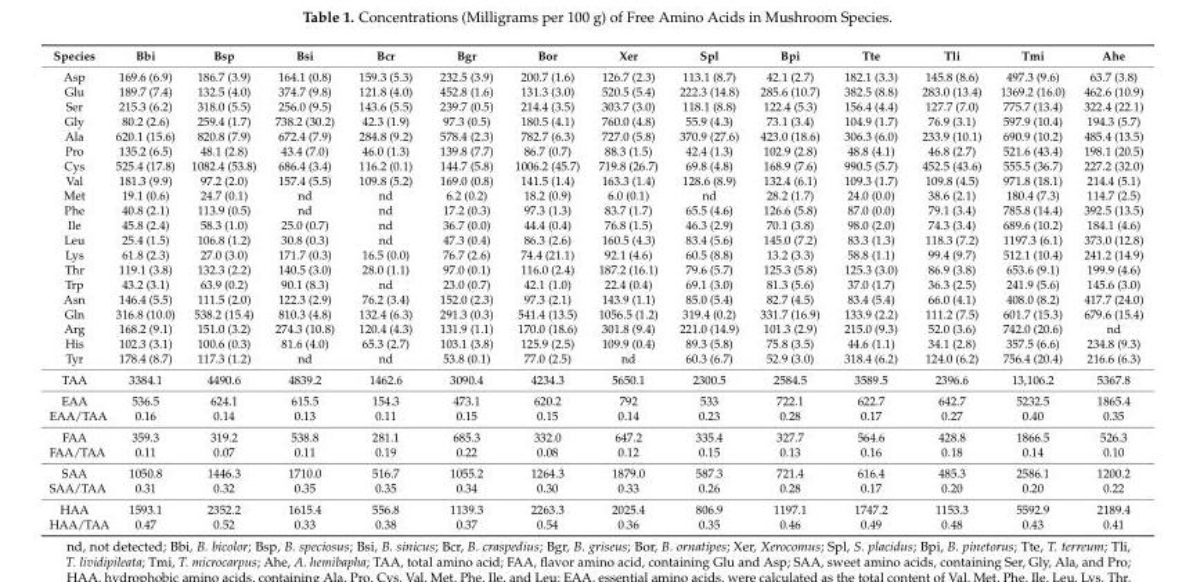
<table><thead><tr><td>Species</td><td>Bbi</td><td>Bsp</td><td>Bsi</td><td>Bcr</td><td>Bgr</td><td>Bor</td><td>Xer</td><td>Spl</td><td>Bpi</td><td>Tte</td><td>Tli</td><td>Tmi</td><td>Ahe</td></tr></thead><tbody><tr><td>Asp</td><td>169.6 (6.9)</td><td>186.7 (3.9)</td><td>164.1 (0.8)</td><td>159.3 (5.3)</td><td>232.5 (3.9)</td><td>200.7 (1.6)</td><td>126.7 (2.3)</td><td>113.1 (8.7)</td><td>42.1 (2.7)</td><td>182.1 (3.3)</td><td>145.8 (8.6)</td><td>497.3 (9.6)</td><td>63.7 (3.8)</td></tr><tr><td>Glu</td><td>189.7 (7.4)</td><td>132.5 (4.0)</td><td>374.7 (9.8)</td><td>121.8 (4.0)</td><td>452.8 (1.6)</td><td>131.3 (3.0)</td><td>520.5 (5.4)</td><td>222.3 (14.8)</td><td>285.6 (10.7)</td><td>382.5 (8.8)</td><td>283.0 (13.4)</td><td>1369.2 (16.0)</td><td>462.6 (10.9)</td></tr><tr><td>Ser</td><td>215.3 (6.2)</td><td>318.0 (5.5)</td><td>256.0 (9.5)</td><td>143.6 (5.5)</td><td>239.7 (0.5)</td><td>214.4 (3.5)</td><td>303.7 (3.0)</td><td>118.1 (8.8)</td><td>122.4 (5.3)</td><td>156.4 (4.4)</td><td>127.7 (7.0)</td><td>775.7 (13.4)</td><td>322.4 (22.1)</td></tr><tr><td>Gly</td><td>80.2 (2.6)</td><td>259.4 (1.7)</td><td>738.2 (30.2)</td><td>42.3 (1.9)</td><td>97.3 (0.5)</td><td>180.5 (4.1)</td><td>760.0 (4.8)</td><td>55.9 (4.3)</td><td>73.1 (3.4)</td><td>104.9 (1.7)</td><td>76.9 (3.1)</td><td>597.9 (10.4)</td><td>194.3 (5.7)</td></tr><tr><td>Ala</td><td>620.1 (15.6)</td><td>820.8 (7.9)</td><td>672.4 (7.9)</td><td>284.8 (9.2)</td><td>578.4 (2.3)</td><td>782.7 (6.3)</td><td>727.0 (5.8)</td><td>370.9 (27.6)</td><td>423.0 (18.6)</td><td>306.3 (6.0)</td><td>233.9 (10.1)</td><td>690.9 (10.2)</td><td>485.4 (13.5)</td></tr><tr><td>Pro</td><td>135.2 (6.5)</td><td>48.1 (2.8)</td><td>43.4 (7.0)</td><td>46.0 (1.3)</td><td>139.8 (7.7)</td><td>86.7 (0.7)</td><td>88.3 (1.5)</td><td>42.4 (1.3)</td><td>102.9 (2.8)</td><td>48.8 (4.1)</td><td>46.8 (2.7)</td><td>521.6 (43.4)</td><td>198.1 (20.5)</td></tr><tr><td>Cys</td><td>525.4 (17.8)</td><td>1082.4 (53.8)</td><td>686.4 (3.4)</td><td>116.2 (0.1)</td><td>144.7 (5.8)</td><td>1006.2 (45.7)</td><td>719.8 (26.7)</td><td>69.8 (4.8)</td><td>168.9 (7.6)</td><td>990.5 (5.7)</td><td>452.5 (43.6)</td><td>555.5 (36.7)</td><td>227.2 (32.0)</td></tr><tr><td>Val</td><td>181.3 (9.9)</td><td>97.2 (2.0)</td><td>157.4 (5.5)</td><td>109.8 (5.2)</td><td>169.0 (0.8)</td><td>141.5 (1.4)</td><td>163.3 (1.4)</td><td>128.6 (8.9)</td><td>132.4 (6.1)</td><td>109.3 (1.7)</td><td>109.8 (4.5)</td><td>971.8 (18.1)</td><td>214.4 (5.1)</td></tr><tr><td>Met</td><td>19.1 (0.6)</td><td>24.7 (0.1)</td><td>nd</td><td>nd</td><td>6.2 (0.2)</td><td>18.2 (0.9)</td><td>6.0 (0.1)</td><td>nd</td><td>28.2 (1.7)</td><td>24.0 (0.0)</td><td>38.6 (2.1)</td><td>180.4 (7.3)</td><td>114.7 (2.5)</td></tr><tr><td>Phe</td><td>40.8 (2.1)</td><td>113.9 (0.5)</td><td>nd</td><td>nd</td><td>17.2 (0.3)</td><td>97.3 (1.3)</td><td>83.7 (1.7)</td><td>65.5 (4.6)</td><td>126.6 (5.8)</td><td>87.0 (0.0)</td><td>79.1 (3.4)</td><td>785.8 (14.4)</td><td>392.5 (13.5)</td></tr><tr><td>Ile</td><td>45.8 (2.4)</td><td>58.3 (1.0)</td><td>25.0 (0.7)</td><td>nd</td><td>36.7 (0.0)</td><td>44.4 (0.4)</td><td>76.8 (1.5)</td><td>46.3 (2.9)</td><td>70.1 (3.8)</td><td>98.0 (2.0)</td><td>74.3 (3.4)</td><td>689.6 (10.2)</td><td>184.1 (4.6)</td></tr><tr><td>Leu</td><td>25.4 (1.5)</td><td>106.8 (1.2)</td><td>30.8 (0.3)</td><td>nd</td><td>47.3 (0.4)</td><td>86.3 (2.6)</td><td>160.5 (4.3)</td><td>83.4 (5.6)</td><td>145.0 (7.2)</td><td>83.3 (1.3)</td><td>118.3 (7.2)</td><td>1197.3 (6.1)</td><td>373.0 (12.8)</td></tr><tr><td>Lys</td><td>61.8 (2.3)</td><td>27.0 (3.0)</td><td>171.7 (0.3)</td><td>16.5 (0.0)</td><td>76.7 (2.6)</td><td>74.4 (21.1)</td><td>92.1 (4.6)</td><td>60.5 (8.8)</td><td>13.2 (3.3)</td><td>58.8 (1.1)</td><td>99.4 (9.7)</td><td>512.1 (10.4)</td><td>241.2 (14.9)</td></tr><tr><td>Thr</td><td>119.1 (3.8)</td><td>132.3 (2.2)</td><td>140.5 (3.0)</td><td>28.0 (1.1)</td><td>97.0 (0.1)</td><td>116.0 (2.4)</td><td>187.2 (16.1)</td><td>79.6 (5.7)</td><td>125.3 (5.8)</td><td>125.3 (3.0)</td><td>86.9 (3.8)</td><td>653.6 (9.1)</td><td>199.9 (4.6)</td></tr><tr><td>Trp</td><td>43.2 (3.1)</td><td>63.9 (0.2)</td><td>90.1 (8.3)</td><td>nd</td><td>23.0 (0.7)</td><td>42.1 (1.0)</td><td>22.4 (0.4)</td><td>69.1 (3.0)</td><td>81.3 (5.6)</td><td>37.0 (1.7)</td><td>36.3 (2.5)</td><td>241.9 (5.6)</td><td>145.6 (3.0)</td></tr><tr><td>Asn</td><td>146.4 (5.5)</td><td>111.5 (2.0)</td><td>122.3 (2.9)</td><td>76.2 (3.4)</td><td>152.0 (2.3)</td><td>97.3 (2.1)</td><td>143.9 (1.1)</td><td>85.0 (5.4)</td><td>82.7 (4.5)</td><td>83.4 (5.4)</td><td>66.0 (4.1)</td><td>408.0 (8.2)</td><td>417.7 (24.0)</td></tr><tr><td>Gln</td><td>316.8 (10.0)</td><td>538.2 (15.4)</td><td>810.3 (4.8)</td><td>132.4 (6.3)</td><td>291.3 (0.3)</td><td>541.4 (13.5)</td><td>1056.5 (1.2)</td><td>319.4 (0.2)</td><td>331.7 (16.9)</td><td>133.9 (2.2)</td><td>111.2 (7.5)</td><td>601.7 (15.3)</td><td>679.6 (15.4)</td></tr><tr><td>Arg</td><td>168.2 (9.1)</td><td>151.0 (3.2)</td><td>274.3 (10.8)</td><td>120.4 (4.3)</td><td>131.9 (1.1)</td><td>170.0 (18.6)</td><td>301.8 (9.4)</td><td>221.0 (14.9)</td><td>101.3 (2.9)</td><td>215.0 (9.3)</td><td>52.0 (3.6)</td><td>742.0 (20.6)</td><td>nd</td></tr><tr><td>His</td><td>102.3 (3.1)</td><td>100.6 (0.3)</td><td>81.6 (4.0)</td><td>65.3 (2.7)</td><td>103.1 (3.8)</td><td>125.9 (2.5)</td><td>109.9 (0.4)</td><td>89.3 (5.8)</td><td>75.8 (3.5)</td><td>44.6 (1.1)</td><td>34.1 (2.8)</td><td>357.5 (6.6)</td><td>234.8 (9.3)</td></tr><tr><td>Tyr</td><td>178.4 (8.7)</td><td>117.3 (1.2)</td><td>nd</td><td>nd</td><td>53.8 (0.1)</td><td>77.0 (2.5)</td><td>nd</td><td>60.3 (6.7)</td><td>52.9 (3.0)</td><td>318.4 (6.2)</td><td>124.0 (6.2)</td><td>756.4 (20.4)</td><td>216.6 (6.3)</td></tr><tr><td>TAA</td><td>3384.1</td><td>4490.6</td><td>4839.2</td><td>1462.6</td><td>3090.4</td><td>4234.3</td><td>5650.1</td><td>2300.5</td><td>2584.5</td><td>3589.5</td><td>2396.6</td><td>13,106.2</td><td>5367.8</td></tr><tr><td>EAA</td><td>536.5</td><td>624.1</td><td>615.5</td><td>154.3</td><td>473.1</td><td>620.2</td><td>792</td><td>533</td><td>722.1</td><td>622.7</td><td>642.7</td><td>5232.5</td><td>1865.4</td></tr><tr><td>EAA/TAA</td><td>0.16</td><td>0.14</td><td>0.13</td><td>0.11</td><td>0.15</td><td>0.15</td><td>0.14</td><td>0.23</td><td>0.28</td><td>0.17</td><td>0.27</td><td>0.40</td><td>0.35</td></tr><tr><td>FAA</td><td>359.3</td><td>319.2</td><td>538.8</td><td>281.1</td><td>685.3</td><td>332.0</td><td>647.2</td><td>335.4</td><td>327.7</td><td>564.6</td><td>428.8</td><td>1866.5</td><td>526.3</td></tr><tr><td>FAA/TAA</td><td>0.11</td><td>0.07</td><td>0.11</td><td>0.19</td><td>0.22</td><td>0.08</td><td>0.12</td><td>0.15</td><td>0.13</td><td>0.16</td><td>0.18</td><td>0.14</td><td>0.10</td></tr><tr><td>SAA</td><td>1050.8</td><td>1446.3</td><td>1710.0</td><td>516.7</td><td>1055.2</td><td>1264.3</td><td>1879.0</td><td>587.3</td><td>721.4</td><td>616.4</td><td>485.3</td><td>2586.1</td><td>1200.2</td></tr><tr><td>SAA/TAA</td><td>0.31</td><td>0.32</td><td>0.35</td><td>0.35</td><td>0.34</td><td>0.30</td><td>0.33</td><td>0.26</td><td>0.28</td><td>0.17</td><td>0.20</td><td>0.20</td><td>0.22</td></tr><tr><td>HAA</td><td>1593.1</td><td>2352.2</td><td>1615.4</td><td>556.8</td><td>1139.3</td><td>2263.3</td><td>2025.4</td><td>806.9</td><td>1197.1</td><td>1747.2</td><td>1153.3</td><td>5592.9</td><td>2189.4</td></tr><tr><td>HAA/TAA</td><td>0.47</td><td>0.52</td><td>0.33</td><td>0.38</td><td>0.37</td><td>0.54</td><td>0.36</td><td>0.35</td><td>0.46</td><td>0.49</td><td>0.48</td><td>0.43</td><td>0.41</td></tr></tbody></table>